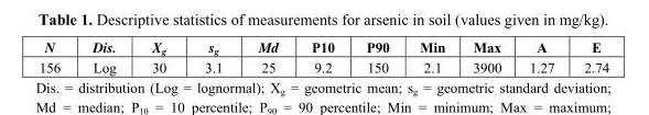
<table><thead><tr><td>N</td><td>Dis.</td><td>X<sub>g</sub></td><td>s<sub>g</sub></td><td>Md</td><td>P10</td><td>P90</td><td>Min</td><td>Max</td><td>A</td><td>E</td></tr></thead><tbody><tr><td>156</td><td>Log</td><td>30</td><td>3.1</td><td>25</td><td>9.2</td><td>150</td><td>2.1</td><td>3900</td><td>1.27</td><td>2.74</td></tr></tbody></table>